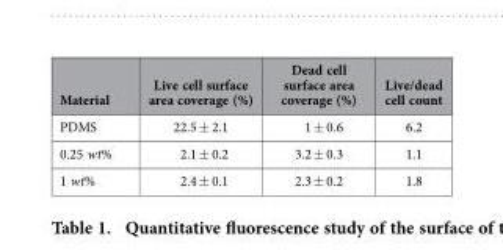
<table><thead><tr><td>Material</td><td>Live cell surface area coverage (%)</td><td>Dead cell surface area coverage (%)</td><td>Live/dead cell count</td></tr></thead><tbody><tr><td>PDMS</td><td>22.5 ± 2.1</td><td>1 ± 0.6</td><td>6.2</td></tr><tr><td>0.25 wt%</td><td>2.1 ± 0.2</td><td>3.2 ± 0.3</td><td>1.1</td></tr><tr><td>1 wt%</td><td>2.4 ± 0.1</td><td>2.3 ± 0.2</td><td>1.8</td></tr></tbody></table>